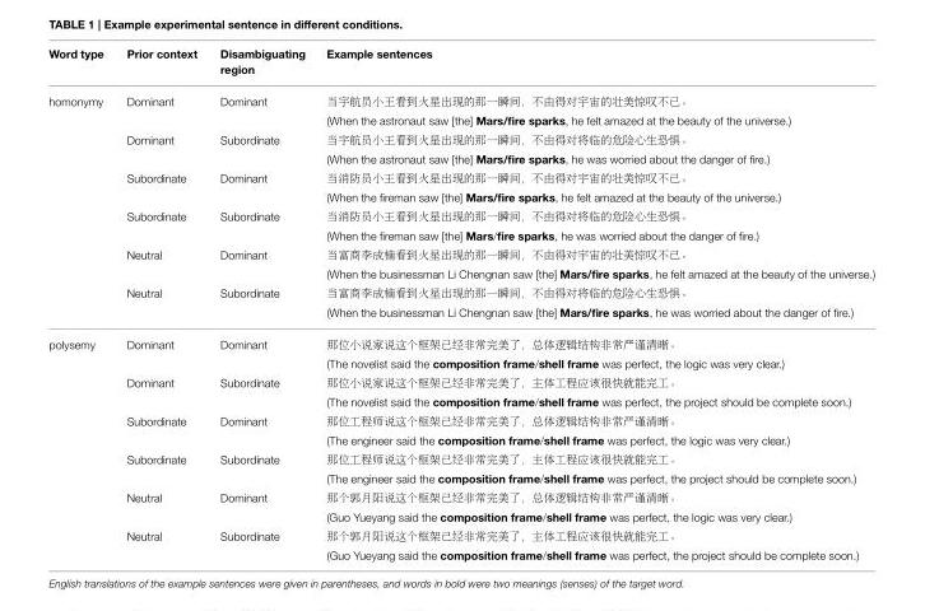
<table><thead><tr><td>Word type</td><td>Prior context</td><td>Disambiguating region</td><td>Example sentences</td></tr></thead><tbody><tr><td rowspan="12">homonymy</td><td>Dominant</td><td>Dominant</td><td>当宇航员小王看到火星出现的那一瞬间，不由得对宇宙的壮美惊叹不已。</td></tr><tr><td></td><td></td><td>(When the astronaut saw [the] Mars/fire sparks, he felt amazed at the beauty of the universe.)</td></tr><tr><td>Dominant</td><td>Subordinate</td><td>当宇航员小王看到火星出现的那一瞬间，不由得对将临的危险心生恐惧。</td></tr><tr><td></td><td></td><td>(When the astronaut saw [the] Mars/fire sparks, he was worried about the danger of fire.)</td></tr><tr><td>Subordinate</td><td>Dominant</td><td>当消防员小王看到火星出现的那一瞬间，不由得对宇宙的壮美惊叹不已。</td></tr><tr><td></td><td></td><td>(When the fireman saw [the] Mars/fire sparks, he felt amazed at the beauty of the universe.)</td></tr><tr><td>Subordinate</td><td>Subordinate</td><td>当消防员小王看到火星出现的那一瞬间，不由得对将临的危险心生恐惧。</td></tr><tr><td></td><td></td><td>(When the fireman saw [the] Mars/fire sparks, he was worried about the danger of fire.)</td></tr><tr><td>Neutral</td><td>Dominant</td><td>当富商李成楠看到火星出现的那一瞬间，不由得对宇宙的壮美惊叹不已。</td></tr><tr><td></td><td></td><td>(When the businessman Li Chengnan saw [the] Mars/fire sparks, he felt amazed at the beauty of the universe.)</td></tr><tr><td>Neutral</td><td>Subordinate</td><td>当富商李成楠看到火星出现的那一瞬间，不由得对将临的危险心生恐惧。</td></tr><tr><td></td><td></td><td>(When the businessman Li Chengnan saw [the] Mars/fire sparks, he was worried about the danger of fire.)</td></tr><tr><td rowspan="12">polysemy</td><td>Dominant</td><td>Dominant</td><td>那位小说家说这个框架已经非常完美了，总体逻辑结构非常严谨清晰。</td></tr><tr><td></td><td></td><td>(The novelist said the composition frame/shell frame was perfect, the logic was very clear.)</td></tr><tr><td>Dominant</td><td>Subordinate</td><td>那位小说家说这个框架已经非常完美了，主体工程应该很快就能完工。</td></tr><tr><td></td><td></td><td>(The novelist said the composition frame/shell frame was perfect, the project should be complete soon.)</td></tr><tr><td>Subordinate</td><td>Dominant</td><td>那位工程师说这个框架已经非常完美了，总体逻辑结构非常严谨清晰。</td></tr><tr><td></td><td></td><td>(The engineer said the composition frame/shell frame was perfect, the logic was very clear.)</td></tr><tr><td>Subordinate</td><td>Subordinate</td><td>那位工程师说这个框架已经非常完美了，主体工程应该很快就能完工。</td></tr><tr><td></td><td></td><td>(The engineer said the composition frame/shell frame was perfect, the project should be complete soon.)</td></tr><tr><td>Neutral</td><td>Dominant</td><td>那个郭月阳说这个框架已经非常完美了，总体逻辑结构非常严谨清晰。</td></tr><tr><td></td><td></td><td>(Guo Yueyang said the composition frame/shell frame was perfect, the logic was very clear.)</td></tr><tr><td>Neutral</td><td>Subordinate</td><td>那个郭月阳说这个框架已经非常完美了，主体工程应该很快就能完工。</td></tr><tr><td></td><td></td><td>(Guo Yueyang said the composition frame/shell frame was perfect, the project should be complete soon.)</td></tr></tbody></table>